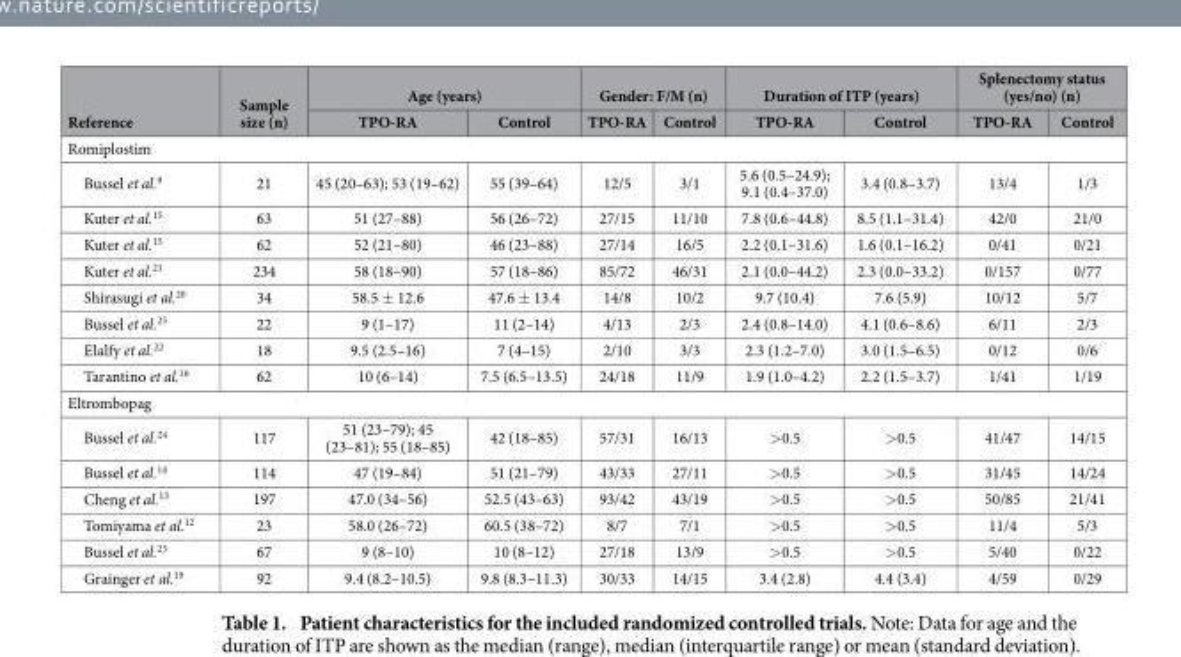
<table><thead><tr><td rowspan="2">Reference</td><td rowspan="2">Sample size (n)</td><td colspan="2">Age (years)</td><td colspan="2">Gender: F/M (n)</td><td colspan="2">Duration of ITP (years)</td><td colspan="2">Splenectomy status (yes/no) (n)</td></tr><tr><td>TPO-RA</td><td>Control</td><td>TPO-RA</td><td>Control</td><td>TPO-RA</td><td>Control</td><td>TPO-RA</td><td>Control</td></tr></thead><tbody><tr><td colspan="10">Romiplostim</td></tr><tr><td>Bussel et al.<sup>9</sup></td><td>21</td><td>45 (20–63); 53 (19–62)</td><td>55 (39–64)</td><td>12/5</td><td>3/1</td><td>5.6 (0.5–24.9); 9.1 (0.4–37.0)</td><td>3.4 (0.8–3.7)</td><td>13/4</td><td>1/3</td></tr><tr><td>Kuter et al.<sup>15</sup></td><td>63</td><td>51 (27–88)</td><td>56 (26–72)</td><td>27/15</td><td>11/10</td><td>7.8 (0.6–44.8)</td><td>8.5 (1.1–31.4)</td><td>42/0</td><td>21/0</td></tr><tr><td>Kuter et al.<sup>15</sup></td><td>62</td><td>52 (21–80)</td><td>46 (23–88)</td><td>27/14</td><td>16/5</td><td>2.2 (0.1–31.6)</td><td>1.6 (0.1–16.2)</td><td>0/41</td><td>0/21</td></tr><tr><td>Kuter et al.<sup>21</sup></td><td>234</td><td>58 (18–90)</td><td>57 (18–86)</td><td>85/72</td><td>46/31</td><td>2.1 (0.0–44.2)</td><td>2.3 (0.0–33.2)</td><td>0/157</td><td>0/77</td></tr><tr><td>Shirasugi et al.<sup>20</sup></td><td>34</td><td>58.5 ± 12.6</td><td>47.6 ± 13.4</td><td>14/8</td><td>10/2</td><td>9.7 (10.4)</td><td>7.6 (5.9)</td><td>10/12</td><td>5/7</td></tr><tr><td>Bussel et al.<sup>25</sup></td><td>22</td><td>9 (1–17)</td><td>11 (2–14)</td><td>4/13</td><td>2/3</td><td>2.4 (0.8–14.0)</td><td>4.1 (0.6–8.6)</td><td>6/11</td><td>2/3</td></tr><tr><td>Elalfy et al.<sup>22</sup></td><td>18</td><td>9.5 (2.5–16)</td><td>7 (4–15)</td><td>2/10</td><td>3/3</td><td>2.3 (1.2–7.0)</td><td>3.0 (1.5–6.5)</td><td>0/12</td><td>0/6</td></tr><tr><td>Tarantino et al.<sup>16</sup></td><td>62</td><td>10 (6–14)</td><td>7.5 (6.5–13.5)</td><td>24/18</td><td>11/9</td><td>1.9 (1.0–4.2)</td><td>2.2 (1.5–3.7)</td><td>1/41</td><td>1/19</td></tr><tr><td colspan="10">Eltrombopag</td></tr><tr><td>Bussel et al.<sup>24</sup></td><td>117</td><td>51 (23–79); 45 (23–81); 55 (18–85)</td><td>42 (18–85)</td><td>57/31</td><td>16/13</td><td>&gt; 0.5</td><td>&gt; 0.5</td><td>41/47</td><td>14/15</td></tr><tr><td>Bussel et al.<sup>14</sup></td><td>114</td><td>47 (19–84)</td><td>51 (21–79)</td><td>43/33</td><td>27/11</td><td>&gt; 0.5</td><td>&gt; 0.5</td><td>31/45</td><td>14/24</td></tr><tr><td>Cheng et al.<sup>13</sup></td><td>197</td><td>47.0 (34–56)</td><td>52.5 (43–63)</td><td>93/42</td><td>43/19</td><td>&gt; 0.5</td><td>&gt; 0.5</td><td>50/85</td><td>21/41</td></tr><tr><td>Tomiyama et al.<sup>12</sup></td><td>23</td><td>58.0 (26–72)</td><td>60.5 (38–72)</td><td>8/7</td><td>7/1</td><td>&gt; 0.5</td><td>&gt; 0.5</td><td>11/4</td><td>5/3</td></tr><tr><td>Bussel et al.<sup>23</sup></td><td>67</td><td>9 (8–10)</td><td>10 (8–12)</td><td>27/18</td><td>13/9</td><td>&gt; 0.5</td><td>&gt; 0.5</td><td>5/40</td><td>0/22</td></tr><tr><td>Grainger et al.<sup>19</sup></td><td>92</td><td>9.4 (8.2–10.5)</td><td>9.8 (8.3–11.3)</td><td>30/33</td><td>14/15</td><td>3.4 (2.8)</td><td>4.4 (3.4)</td><td>4/59</td><td>0/29</td></tr></tbody></table>